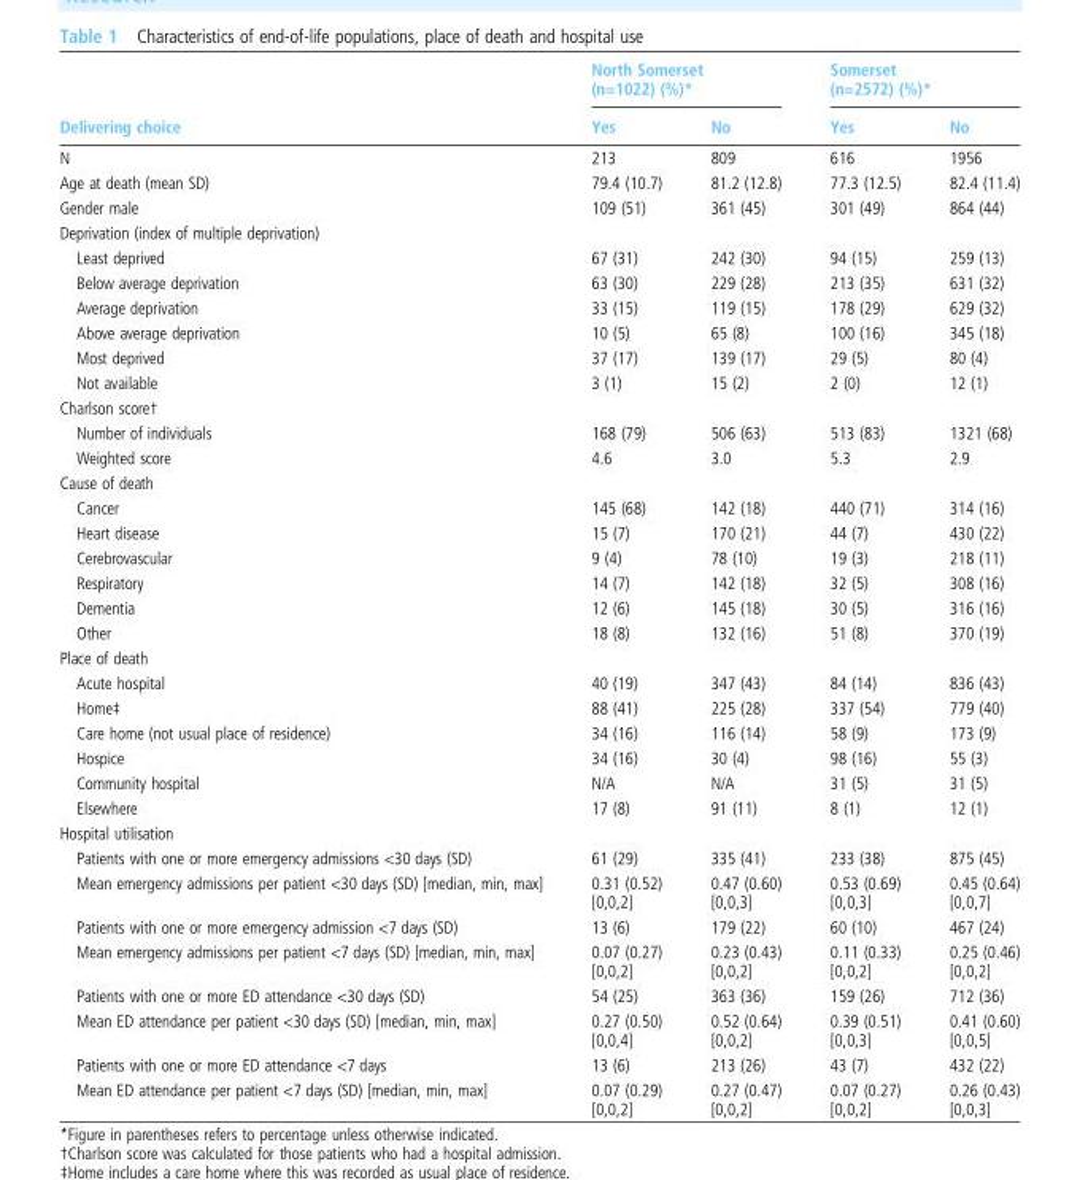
<table><thead><tr><td rowspan="2">Delivering choice</td><td colspan="2">North Somerset (n=1022) (%)*</td><td colspan="2">Somerset (n=2572) (%)*</td></tr><tr><td>Yes</td><td>No</td><td>Yes</td><td>No</td></tr></thead><tbody><tr><td>N</td><td>213</td><td>809</td><td>616</td><td>1956</td></tr><tr><td>Age at death (mean SD)</td><td>79.4 (10.7)</td><td>81.2 (12.8)</td><td>77.3 (12.5)</td><td>82.4 (11.4)</td></tr><tr><td>Gender male</td><td>109 (51)</td><td>361 (45)</td><td>301 (49)</td><td>864 (44)</td></tr><tr><td colspan="5">Deprivation (index of multiple deprivation)</td></tr><tr><td>Least deprived</td><td>67 (31)</td><td>242 (30)</td><td>94 (15)</td><td>259 (13)</td></tr><tr><td>Below average deprivation</td><td>63 (30)</td><td>229 (28)</td><td>213 (35)</td><td>631 (32)</td></tr><tr><td>Average deprivation</td><td>33 (15)</td><td>119 (15)</td><td>178 (29)</td><td>629 (32)</td></tr><tr><td>Above average deprivation</td><td>10 (5)</td><td>65 (8)</td><td>100 (16)</td><td>345 (18)</td></tr><tr><td>Most deprived</td><td>37 (17)</td><td>139 (17)</td><td>29 (5)</td><td>80 (4)</td></tr><tr><td>Not available</td><td>3 (1)</td><td>15 (2)</td><td>2 (0)</td><td>12 (1)</td></tr><tr><td colspan="5">Charlson score†</td></tr><tr><td>Number of individuals</td><td>168 (79)</td><td>506 (63)</td><td>513 (83)</td><td>1321 (68)</td></tr><tr><td>Weighted score</td><td>4.6</td><td>3.0</td><td>5.3</td><td>2.9</td></tr><tr><td colspan="5">Cause of death</td></tr><tr><td>Cancer</td><td>145 (68)</td><td>142 (18)</td><td>440 (71)</td><td>314 (16)</td></tr><tr><td>Heart disease</td><td>15 (7)</td><td>170 (21)</td><td>44 (7)</td><td>430 (22)</td></tr><tr><td>Cerebrovascular</td><td>9 (4)</td><td>78 (10)</td><td>19 (3)</td><td>218 (11)</td></tr><tr><td>Respiratory</td><td>14 (7)</td><td>142 (18)</td><td>32 (5)</td><td>308 (16)</td></tr><tr><td>Dementia</td><td>12 (6)</td><td>145 (18)</td><td>30 (5)</td><td>316 (16)</td></tr><tr><td>Other</td><td>18 (8)</td><td>132 (16)</td><td>51 (8)</td><td>370 (19)</td></tr><tr><td colspan="5">Place of death</td></tr><tr><td>Acute hospital</td><td>40 (19)</td><td>347 (43)</td><td>84 (14)</td><td>836 (43)</td></tr><tr><td>Home‡</td><td>88 (41)</td><td>225 (28)</td><td>337 (54)</td><td>779 (40)</td></tr><tr><td>Care home (not usual place of residence)</td><td>34 (16)</td><td>116 (14)</td><td>58 (9)</td><td>173 (9)</td></tr><tr><td>Hospice</td><td>34 (16)</td><td>30 (4)</td><td>98 (16)</td><td>55 (3)</td></tr><tr><td>Community hospital</td><td>N/A</td><td>N/A</td><td>31 (5)</td><td>31 (5)</td></tr><tr><td>Elsewhere</td><td>17 (8)</td><td>91 (11)</td><td>8 (1)</td><td>12 (1)</td></tr><tr><td colspan="5">Hospital utilisation</td></tr><tr><td>Patients with one or more emergency admissions &lt;30 days (SD)</td><td>61 (29)</td><td>335 (41)</td><td>233 (38)</td><td>875 (45)</td></tr><tr><td>Mean emergency admissions per patient &lt;30 days (SD) [median, min, max]</td><td>0.31 (0.52) [0,0,2]</td><td>0.47 (0.60) [0,0,3]</td><td>0.53 (0.69) [0,0,3]</td><td>0.45 (0.64) [0,0,7]</td></tr><tr><td>Patients with one or more emergency admission &lt;7 days (SD)</td><td>13 (6)</td><td>179 (22)</td><td>60 (10)</td><td>467 (24)</td></tr><tr><td>Mean emergency admissions per patient &lt;7 days (SD) [median, min, max]</td><td>0.07 (0.27) [0,0,2]</td><td>0.23 (0.43) [0,0,2]</td><td>0.11 (0.33) [0,0,2]</td><td>0.25 (0.46) [0,0,2]</td></tr><tr><td>Patients with one or more ED attendance &lt;30 days (SD)</td><td>54 (25)</td><td>363 (36)</td><td>159 (26)</td><td>712 (36)</td></tr><tr><td>Mean ED attendance per patient &lt;30 days (SD) [median, min, max]</td><td>0.27 (0.50) [0,0,4]</td><td>0.52 (0.64) [0,0,2]</td><td>0.39 (0.51) [0,0,3]</td><td>0.41 (0.60) [0,0,5]</td></tr><tr><td>Patients with one or more ED attendance &lt;7 days</td><td>13 (6)</td><td>213 (26)</td><td>43 (7)</td><td>432 (22)</td></tr><tr><td>Mean ED attendance per patient &lt;7 days (SD) [median, min, max]</td><td>0.07 (0.29) [0,0,2]</td><td>0.27 (0.47) [0,0,2]</td><td>0.07 (0.27) [0,0,2]</td><td>0.26 (0.43) [0,0,3]</td></tr></tbody></table>